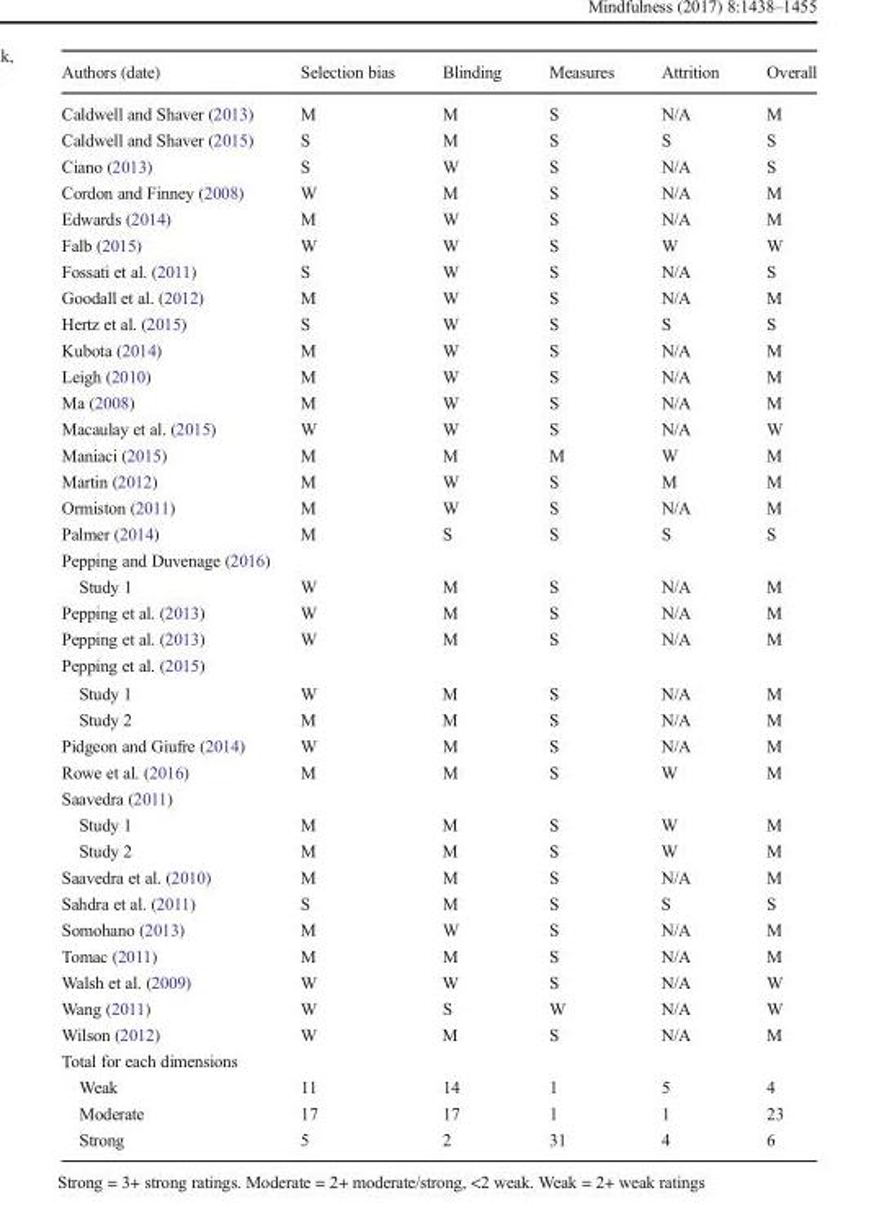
<table><thead><tr><td>Authors (date)</td><td>Selection bias</td><td>Blinding</td><td>Measures</td><td>Attrition</td><td>Overall</td></tr></thead><tbody><tr><td>Caldwell and Shaver (2013)</td><td>M</td><td>M</td><td>S</td><td>N/A</td><td>M</td></tr><tr><td>Caldwell and Shaver (2015)</td><td>S</td><td>M</td><td>S</td><td>S</td><td>S</td></tr><tr><td>Ciano (2013)</td><td>S</td><td>W</td><td>S</td><td>N/A</td><td>S</td></tr><tr><td>Cordon and Finney (2008)</td><td>W</td><td>M</td><td>S</td><td>N/A</td><td>M</td></tr><tr><td>Edwards (2014)</td><td>M</td><td>W</td><td>S</td><td>N/A</td><td>M</td></tr><tr><td>Falb (2015)</td><td>W</td><td>W</td><td>S</td><td>W</td><td>W</td></tr><tr><td>Fossati et al. (2011)</td><td>S</td><td>W</td><td>S</td><td>N/A</td><td>S</td></tr><tr><td>Goodall et al. (2012)</td><td>M</td><td>W</td><td>S</td><td>N/A</td><td>M</td></tr><tr><td>Hertz et al. (2015)</td><td>S</td><td>W</td><td>S</td><td>S</td><td>S</td></tr><tr><td>Kubota (2014)</td><td>M</td><td>W</td><td>S</td><td>N/A</td><td>M</td></tr><tr><td>Leigh (2010)</td><td>M</td><td>W</td><td>S</td><td>N/A</td><td>M</td></tr><tr><td>Ma (2008)</td><td>M</td><td>W</td><td>S</td><td>N/A</td><td>M</td></tr><tr><td>Macaulay et al. (2015)</td><td>W</td><td>W</td><td>S</td><td>N/A</td><td>W</td></tr><tr><td>Maniaci (2015)</td><td>M</td><td>M</td><td>M</td><td>W</td><td>M</td></tr><tr><td>Martin (2012)</td><td>M</td><td>W</td><td>S</td><td>M</td><td>M</td></tr><tr><td>Ormiston (2011)</td><td>M</td><td>W</td><td>S</td><td>N/A</td><td>M</td></tr><tr><td>Palmer (2014)</td><td>M</td><td>S</td><td>S</td><td>S</td><td>S</td></tr><tr><td colspan="6">Pepping and Duvenage (2016)</td></tr><tr><td>Study 1</td><td>W</td><td>M</td><td>S</td><td>N/A</td><td>M</td></tr><tr><td>Pepping et al. (2013)</td><td>W</td><td>M</td><td>S</td><td>N/A</td><td>M</td></tr><tr><td>Pepping et al. (2013)</td><td>W</td><td>M</td><td>S</td><td>N/A</td><td>M</td></tr><tr><td colspan="6">Pepping et al. (2015)</td></tr><tr><td>Study 1</td><td>W</td><td>M</td><td>S</td><td>N/A</td><td>M</td></tr><tr><td>Study 2</td><td>M</td><td>M</td><td>S</td><td>N/A</td><td>M</td></tr><tr><td>Pidgeon and Giufre (2014)</td><td>W</td><td>M</td><td>S</td><td>N/A</td><td>M</td></tr><tr><td>Rowe et al. (2016)</td><td>M</td><td>M</td><td>S</td><td>W</td><td>M</td></tr><tr><td colspan="6">Saavedra (2011)</td></tr><tr><td>Study 1</td><td>M</td><td>M</td><td>S</td><td>W</td><td>M</td></tr><tr><td>Study 2</td><td>M</td><td>M</td><td>S</td><td>W</td><td>M</td></tr><tr><td>Saavedra et al. (2010)</td><td>M</td><td>M</td><td>S</td><td>N/A</td><td>M</td></tr><tr><td>Sahdra et al. (2011)</td><td>S</td><td>M</td><td>S</td><td>S</td><td>S</td></tr><tr><td>Somohano (2013)</td><td>M</td><td>W</td><td>S</td><td>N/A</td><td>M</td></tr><tr><td>Tomac (2011)</td><td>M</td><td>M</td><td>S</td><td>N/A</td><td>M</td></tr><tr><td>Walsh et al. (2009)</td><td>W</td><td>W</td><td>S</td><td>N/A</td><td>W</td></tr><tr><td>Wang (2011)</td><td>W</td><td>S</td><td>W</td><td>N/A</td><td>W</td></tr><tr><td>Wilson (2012)</td><td>W</td><td>M</td><td>S</td><td>N/A</td><td>M</td></tr><tr><td colspan="6">Total for each dimensions</td></tr><tr><td>Weak</td><td>11</td><td>14</td><td>1</td><td>5</td><td>4</td></tr><tr><td>Moderate</td><td>17</td><td>17</td><td>1</td><td>1</td><td>23</td></tr><tr><td>Strong</td><td>5</td><td>2</td><td>31</td><td>4</td><td>6</td></tr></tbody></table>